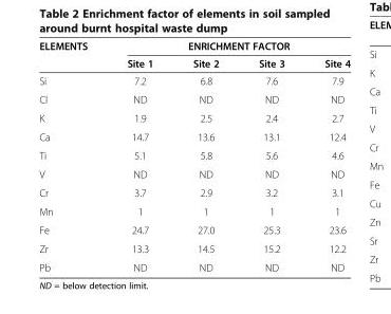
<table><thead><tr><td rowspan="2">ELEMENTS</td><td colspan="4">ENRICHMENT FACTOR</td></tr><tr><td>Site 1</td><td>Site 2</td><td>Site 3</td><td>Site 4</td></tr></thead><tbody><tr><td>Si</td><td>7.2</td><td>6.8</td><td>7.6</td><td>7.9</td></tr><tr><td>Cl</td><td>ND</td><td>ND</td><td>ND</td><td>ND</td></tr><tr><td>K</td><td>1.9</td><td>2.5</td><td>2.4</td><td>2.7</td></tr><tr><td>Ca</td><td>14.7</td><td>13.6</td><td>13.1</td><td>12.4</td></tr><tr><td>Ti</td><td>5.1</td><td>5.8</td><td>5.6</td><td>4.6</td></tr><tr><td>V</td><td>ND</td><td>ND</td><td>ND</td><td>ND</td></tr><tr><td>Cr</td><td>3.7</td><td>2.9</td><td>3.2</td><td>3.1</td></tr><tr><td>Mn</td><td>1</td><td>1</td><td>1</td><td>1</td></tr><tr><td>Fe</td><td>24.7</td><td>27.0</td><td>25.3</td><td>23.6</td></tr><tr><td>Zr</td><td>13.3</td><td>14.5</td><td>15.2</td><td>12.2</td></tr><tr><td>Pb</td><td>ND</td><td>ND</td><td>ND</td><td>ND</td></tr></tbody></table>